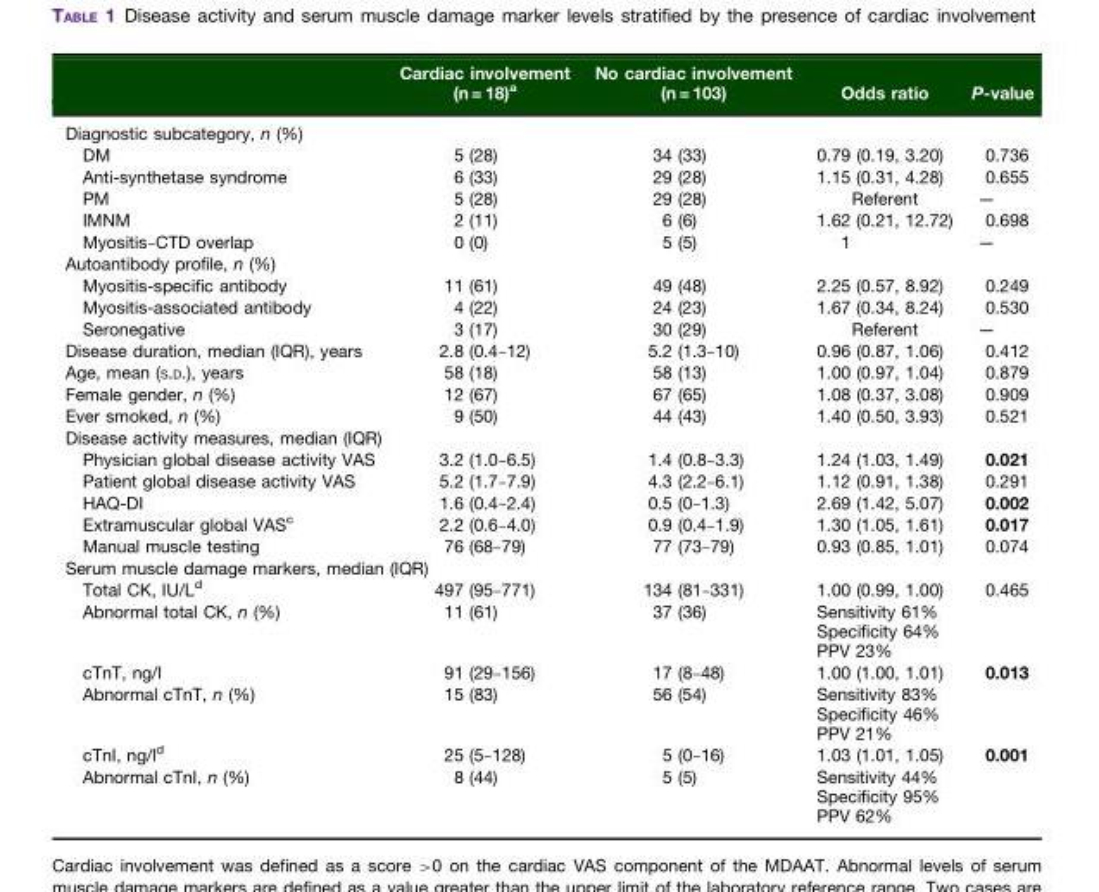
<table><thead><tr><td></td><td>Cardiac involvement (n = 18)<sup>a</sup></td><td>No cardiac involvement (n = 103)</td><td>Odds ratio</td><td>P-value</td></tr></thead><tbody><tr><td colspan="5">Diagnostic subcategory, n (%)</td></tr><tr><td>DM</td><td>5 (28)</td><td>34 (33)</td><td>0.79 (0.19, 3.20)</td><td>0.736</td></tr><tr><td>Anti-synthetase syndrome</td><td>6 (33)</td><td>29 (28)</td><td>1.15 (0.31, 4.28)</td><td>0.655</td></tr><tr><td>PM</td><td>5 (28)</td><td>29 (28)</td><td>Referent</td><td>—</td></tr><tr><td>IMNM</td><td>2 (11)</td><td>6 (6)</td><td>1.62 (0.21, 12.72)</td><td>0.698</td></tr><tr><td>Myositis–CTD overlap</td><td>0 (0)</td><td>5 (5)</td><td>1</td><td>—</td></tr><tr><td colspan="5">Autoantibody profile, n (%)</td></tr><tr><td>Myositis-specific antibody</td><td>11 (61)</td><td>49 (48)</td><td>2.25 (0.57, 8.92)</td><td>0.249</td></tr><tr><td>Myositis-associated antibody</td><td>4 (22)</td><td>24 (23)</td><td>1.67 (0.34, 8.24)</td><td>0.530</td></tr><tr><td>Seronegative</td><td>3 (17)</td><td>30 (29)</td><td>Referent</td><td>—</td></tr><tr><td>Disease duration, median (IQR), years</td><td>2.8 (0.4–12)</td><td>5.2 (1.3–10)</td><td>0.96 (0.87, 1.06)</td><td>0.412</td></tr><tr><td>Age, mean (S.D.), years</td><td>58 (18)</td><td>58 (13)</td><td>1.00 (0.97, 1.04)</td><td>0.879</td></tr><tr><td>Female gender, n (%)</td><td>12 (67)</td><td>67 (65)</td><td>1.08 (0.37, 3.08)</td><td>0.909</td></tr><tr><td>Ever smoked, n (%)</td><td>9 (50)</td><td>44 (43)</td><td>1.40 (0.50, 3.93)</td><td>0.521</td></tr><tr><td colspan="5">Disease activity measures, median (IQR)</td></tr><tr><td>Physician global disease activity VAS</td><td>3.2 (1.0–6.5)</td><td>1.4 (0.8–3.3)</td><td>1.24 (1.03, 1.49)</td><td>0.021</td></tr><tr><td>Patient global disease activity VAS</td><td>5.2 (1.7–7.9)</td><td>4.3 (2.2–6.1)</td><td>1.12 (0.91, 1.38)</td><td>0.291</td></tr><tr><td>HAQ-DI</td><td>1.6 (0.4–2.4)</td><td>0.5 (0–1.3)</td><td>2.69 (1.42, 5.07)</td><td>0.002</td></tr><tr><td>Extramuscular global VAS<sup>c</sup></td><td>2.2 (0.6–4.0)</td><td>0.9 (0.4–1.9)</td><td>1.30 (1.05, 1.61)</td><td>0.017</td></tr><tr><td>Manual muscle testing</td><td>76 (68–79)</td><td>77 (73–79)</td><td>0.93 (0.85, 1.01)</td><td>0.074</td></tr><tr><td colspan="5">Serum muscle damage markers, median (IQR)</td></tr><tr><td>Total CK, IU/L<sup>d</sup></td><td>497 (95–771)</td><td>134 (81–331)</td><td>1.00 (0.99, 1.00)</td><td>0.465</td></tr><tr><td>Abnormal total CK, n (%)</td><td>11 (61)</td><td>37 (36)</td><td colspan="2">Sensitivity 61% Specificity 64% PPV 23%</td></tr><tr><td>cTnT, ng/l</td><td>91 (29–156)</td><td>17 (8–48)</td><td>1.00 (1.00, 1.01)</td><td>0.013</td></tr><tr><td>Abnormal cTnT, n (%)</td><td>15 (83)</td><td>56 (54)</td><td colspan="2">Sensitivity 83% Specificity 46% PPV 21%</td></tr><tr><td>cTnI, ng/l<sup>d</sup></td><td>25 (5–128)</td><td>5 (0–16)</td><td>1.03 (1.01, 1.05)</td><td>0.001</td></tr><tr><td>Abnormal cTnI, n (%)</td><td>8 (44)</td><td>5 (5)</td><td colspan="2">Sensitivity 44% Specificity 95% PPV 62%</td></tr></tbody></table>